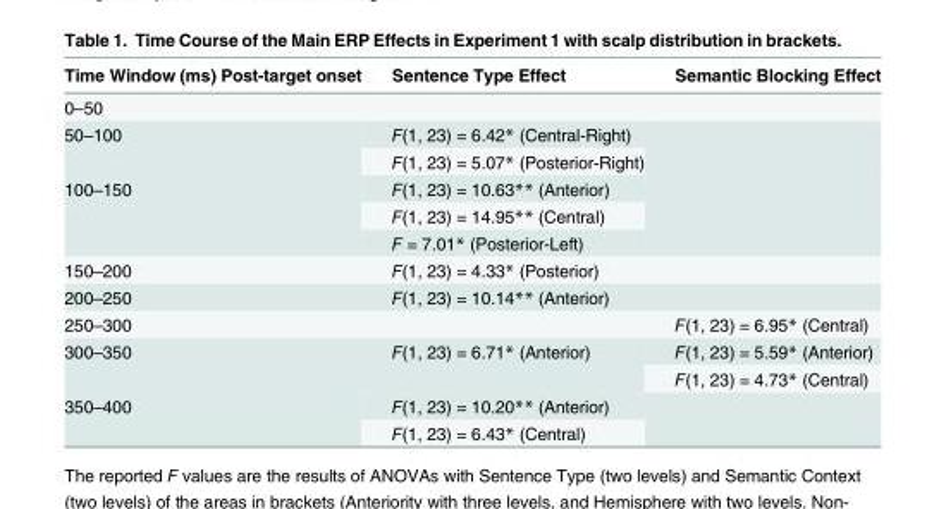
<table><thead><tr><td>Time Window (ms) Post-target onset</td><td>Sentence Type Effect</td><td>Semantic Blocking Effect</td></tr></thead><tbody><tr><td colspan="3">0–50</td></tr><tr><td rowspan="2">50–100</td><td>F(1, 23) = 6.42* (Central-Right)</td><td rowspan="2"></td></tr><tr><td>F(1, 23) = 5.07* (Posterior-Right)</td></tr><tr><td rowspan="3">100–150</td><td>F(1, 23) = 10.63** (Anterior)</td><td rowspan="3"></td></tr><tr><td>F(1, 23) = 14.95** (Central)</td></tr><tr><td>F = 7.01* (Posterior-Left)</td></tr><tr><td>150–200</td><td>F(1, 23) = 4.33* (Posterior)</td><td></td></tr><tr><td>200–250</td><td>F(1, 23) = 10.14** (Anterior)</td><td></td></tr><tr><td>250–300</td><td></td><td>F(1, 23) = 6.95* (Central)</td></tr><tr><td rowspan="2">300–350</td><td rowspan="2">F(1, 23) = 6.71* (Anterior)</td><td>F(1, 23) = 5.59* (Anterior)</td></tr><tr><td>F(1, 23) = 4.73* (Central)</td></tr><tr><td rowspan="2">350–400</td><td>F(1, 23) = 10.20** (Anterior)</td><td rowspan="2"></td></tr><tr><td>F(1, 23) = 6.43* (Central)</td></tr></tbody></table>